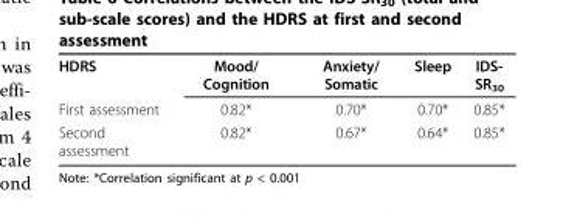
<table><tbody><tr><td>HDRS</td><td>Mood/ Cognition</td><td>Anxiety/ Somatic</td><td>Sleep</td><td>IDS- SR<sub>30</sub></td></tr><tr><td>First assessment</td><td>0.82*</td><td>0.70*</td><td>0.70*</td><td>0.85*</td></tr><tr><td>Second assessment</td><td>0.82*</td><td>0.67*</td><td>0.64*</td><td>0.85*</td></tr></tbody></table>